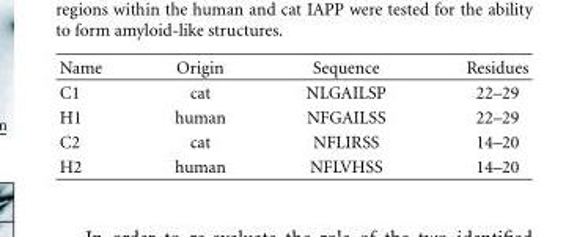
<table><thead><tr><td>Name</td><td>Origin</td><td>Sequence</td><td>Residues</td></tr></thead><tbody><tr><td>C1</td><td>cat</td><td>NLGAILSP</td><td>22–29</td></tr><tr><td>H1</td><td>human</td><td>NFGAILSS</td><td>22–29</td></tr><tr><td>C2</td><td>cat</td><td>NFLIRSS</td><td>14–20</td></tr><tr><td>H2</td><td>human</td><td>NFLVHSS</td><td>14–20</td></tr></tbody></table>